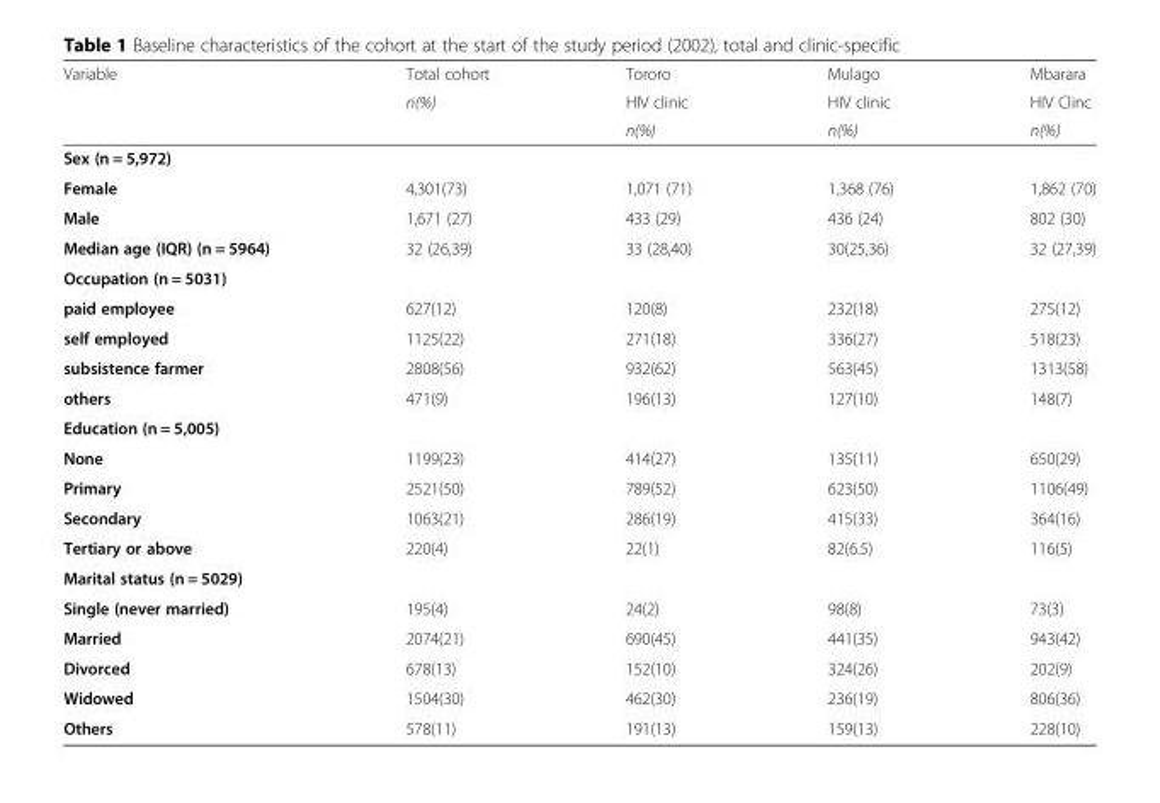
<table><thead><tr><td rowspan="3">Variable</td><td rowspan="3">Total cohort n(%)</td><td rowspan="3">Tororo HIV clinic n(%)</td><td rowspan="3">Mulago HIV clinic n(%)</td><td rowspan="3">Mbarara HIV Clinc n(%)</td></tr><tr></tr><tr></tr></thead><tbody><tr><td colspan="5">Sex (n = 5,972)</td></tr><tr><td>Female</td><td>4,301(73)</td><td>1,071 (71)</td><td>1,368 (76)</td><td>1,862 (70)</td></tr><tr><td>Male</td><td>1,671 (27)</td><td>433 (29)</td><td>436 (24)</td><td>802 (30)</td></tr><tr><td>Median age (IQR) (n = 5964)</td><td>32 (26,39)</td><td>33 (28,40)</td><td>30(25,36)</td><td>32 (27,39)</td></tr><tr><td colspan="5">Occupation (n = 5031)</td></tr><tr><td>paid employee</td><td>627(12)</td><td>120(8)</td><td>232(18)</td><td>275(12)</td></tr><tr><td>self employed</td><td>1125(22)</td><td>271(18)</td><td>336(27)</td><td>518(23)</td></tr><tr><td>subsistence farmer</td><td>2808(56)</td><td>932(62)</td><td>563(45)</td><td>1313(58)</td></tr><tr><td>others</td><td>471(9)</td><td>196(13)</td><td>127(10)</td><td>148(7)</td></tr><tr><td colspan="5">Education (n = 5,005)</td></tr><tr><td>None</td><td>1199(23)</td><td>414(27)</td><td>135(11)</td><td>650(29)</td></tr><tr><td>Primary</td><td>2521(50)</td><td>789(52)</td><td>623(50)</td><td>1106(49)</td></tr><tr><td>Secondary</td><td>1063(21)</td><td>286(19)</td><td>415(33)</td><td>364(16)</td></tr><tr><td>Tertiary or above</td><td>220(4)</td><td>22(1)</td><td>82(6.5)</td><td>116(5)</td></tr><tr><td colspan="5">Marital status (n = 5029)</td></tr><tr><td>Single (never married)</td><td>195(4)</td><td>24(2)</td><td>98(8)</td><td>73(3)</td></tr><tr><td>Married</td><td>2074(21)</td><td>690(45)</td><td>441(35)</td><td>943(42)</td></tr><tr><td>Divorced</td><td>678(13)</td><td>152(10)</td><td>324(26)</td><td>202(9)</td></tr><tr><td>Widowed</td><td>1504(30)</td><td>462(30)</td><td>236(19)</td><td>806(36)</td></tr><tr><td>Others</td><td>578(11)</td><td>191(13)</td><td>159(13)</td><td>228(10)</td></tr></tbody></table>